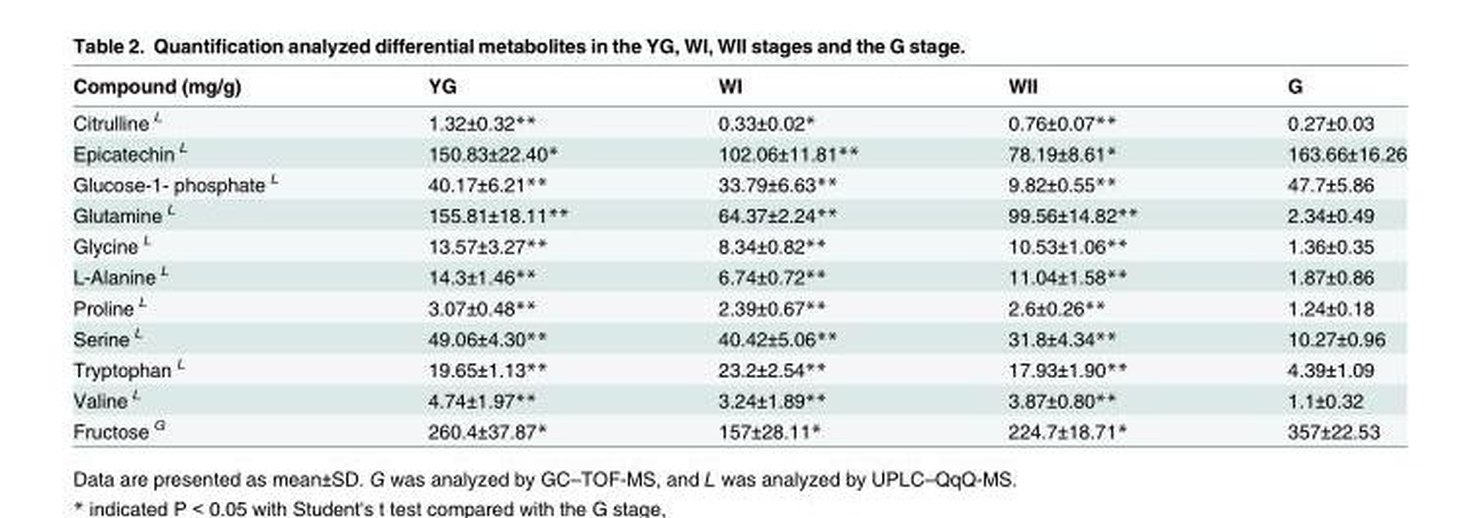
<table><thead><tr><td>Compound (mg/g)</td><td>YG</td><td>WI</td><td>WII</td><td>G</td></tr></thead><tbody><tr><td>Citrulline <sup>L</sup></td><td>1.32±0.32**</td><td>0.33±0.02*</td><td>0.76±0.07**</td><td>0.27±0.03</td></tr><tr><td>Epicatechin <sup>L</sup></td><td>150.83±22.40*</td><td>102.06±11.81**</td><td>78.19±8.61*</td><td>163.66±16.26</td></tr><tr><td>Glucose-1- phosphate <sup>L</sup></td><td>40.17±6.21**</td><td>33.79±6.63**</td><td>9.82±0.55**</td><td>47.7±5.86</td></tr><tr><td>Glutamine <sup>L</sup></td><td>155.81±18.11**</td><td>64.37±2.24**</td><td>99.56±14.82**</td><td>2.34±0.49</td></tr><tr><td>Glycine <sup>L</sup></td><td>13.57±3.27**</td><td>8.34±0.82**</td><td>10.53±1.06**</td><td>1.36±0.35</td></tr><tr><td>L-Alanine <sup>L</sup></td><td>14.3±1.46**</td><td>6.74±0.72**</td><td>11.04±1.58**</td><td>1.87±0.86</td></tr><tr><td>Proline <sup>L</sup></td><td>3.07±0.48**</td><td>2.39±0.67**</td><td>2.6±0.26**</td><td>1.24±0.18</td></tr><tr><td>Serine <sup>L</sup></td><td>49.06±4.30**</td><td>40.42±5.06**</td><td>31.8±4.34**</td><td>10.27±0.96</td></tr><tr><td>Tryptophan <sup>L</sup></td><td>19.65±1.13**</td><td>23.2±2.54**</td><td>17.93±1.90**</td><td>4.39±1.09</td></tr><tr><td>Valine <sup>L</sup></td><td>4.74±1.97**</td><td>3.24±1.89**</td><td>3.87±0.80**</td><td>1.1±0.32</td></tr><tr><td>Fructose <sup>G</sup></td><td>260.4±37.87*</td><td>157±28.11*</td><td>224.7±18.71*</td><td>357±22.53</td></tr></tbody></table>